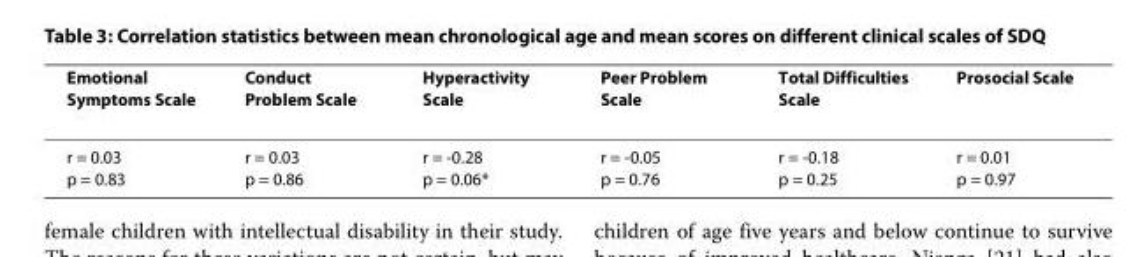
<table><thead><tr><td>Emotional Symptoms Scale</td><td>Conduct Problem Scale</td><td>Hyperactivity Scale</td><td>Peer Problem Scale</td><td>Total Difficulties Scale</td><td>Prosocial Scale</td></tr></thead><tbody><tr><td>r = 0.03 p = 0.83</td><td>r = 0.03 p = 0.86</td><td>r = -0.28 p = 0.06*</td><td>r = -0.05 p = 0.76</td><td>r = -0.18 p = 0.25</td><td>r = 0.01 p = 0.97</td></tr></tbody></table>